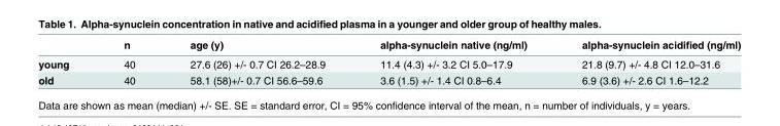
<table><thead><tr><td></td><td>n</td><td>age (y)</td><td>alpha-synuclein native (ng/ml)</td><td>alpha-synuclein acidified (ng/ml)</td></tr></thead><tbody><tr><td>young</td><td>40</td><td>27.6 (26) +/- 0.7 CI 26.2–28.9</td><td>11.4 (4.3) +/- 3.2 CI 5.0–17.9</td><td>21.8 (9.7) +/- 4.8 CI 12.0–31.6</td></tr><tr><td>old</td><td>40</td><td>58.1 (58)+/- 0.7 CI 56.6–59.6</td><td>3.6 (1.5) +/- 1.4 CI 0.8–6.4</td><td>6.9 (3.6) +/- 2.6 CI 1.6–12.2</td></tr></tbody></table>